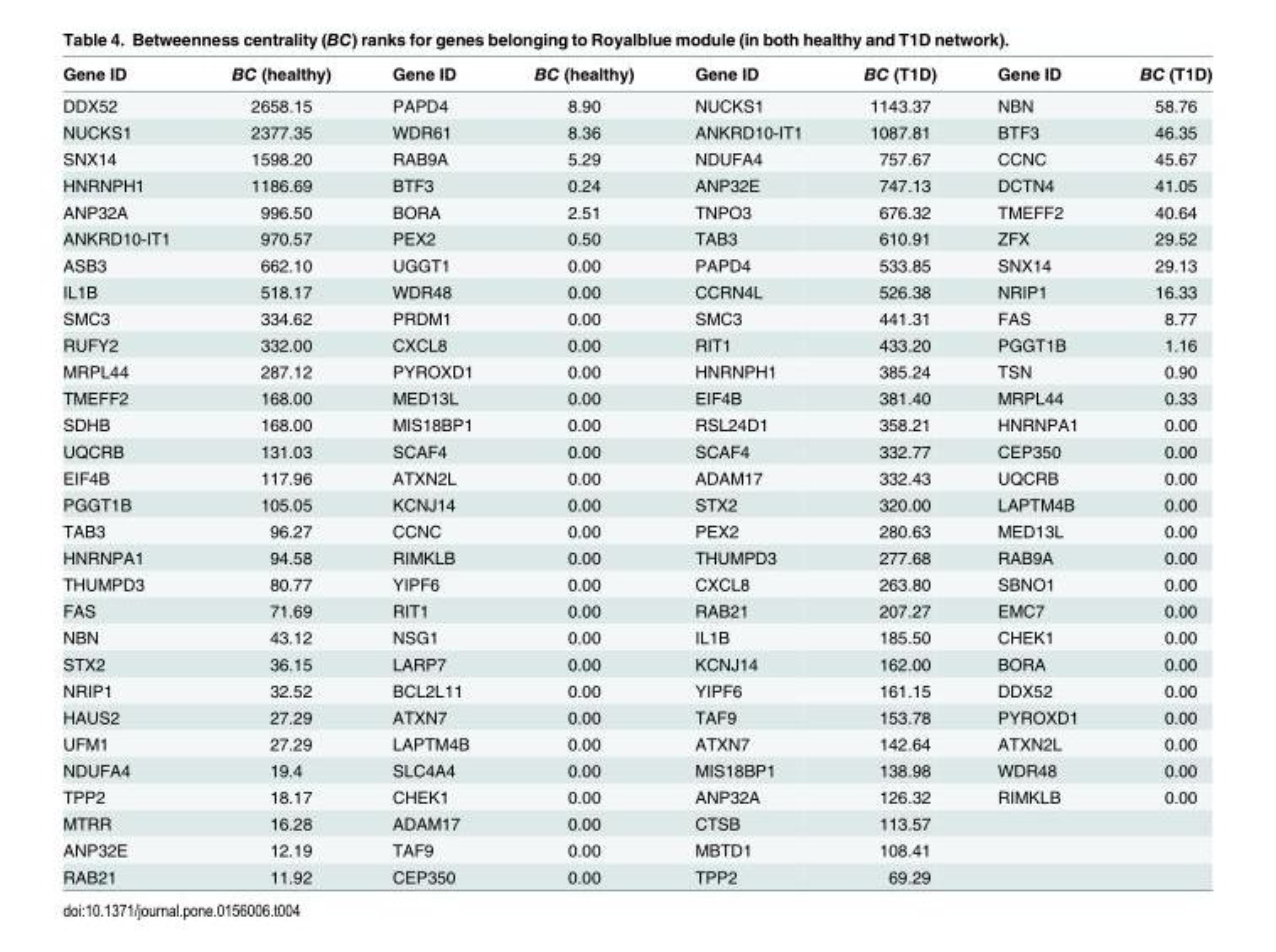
<table><thead><tr><td>Gene ID</td><td>BC (healthy)</td><td>Gene ID</td><td>BC (healthy)</td><td>Gene ID</td><td>BC (T1D)</td><td>Gene ID</td><td>BC (T1D)</td></tr></thead><tbody><tr><td>DDX52</td><td>2658.15</td><td>PAPD4</td><td>8.90</td><td>NUCKS1</td><td>1143.37</td><td>NBN</td><td>58.76</td></tr><tr><td>NUCKS1</td><td>2377.35</td><td>WDR61</td><td>8.36</td><td>ANKRD10-IT1</td><td>1087.81</td><td>BTF3</td><td>46.35</td></tr><tr><td>SNX14</td><td>1598.20</td><td>RAB9A</td><td>5.29</td><td>NDUFA4</td><td>757.67</td><td>CCNC</td><td>45.67</td></tr><tr><td>HNRNPH1</td><td>1186.69</td><td>BTF3</td><td>0.24</td><td>ANP32E</td><td>747.13</td><td>DCTN4</td><td>41.05</td></tr><tr><td>ANP32A</td><td>996.50</td><td>BORA</td><td>2.51</td><td>TNPO3</td><td>676.32</td><td>TMEFF2</td><td>40.64</td></tr><tr><td>ANKRD10-IT1</td><td>970.57</td><td>PEX2</td><td>0.50</td><td>TAB3</td><td>610.91</td><td>ZFX</td><td>29.52</td></tr><tr><td>ASB3</td><td>662.10</td><td>UGGT1</td><td>0.00</td><td>PAPD4</td><td>533.85</td><td>SNX14</td><td>29.13</td></tr><tr><td>IL1B</td><td>518.17</td><td>WDR48</td><td>0.00</td><td>CCRN4L</td><td>526.38</td><td>NRIP1</td><td>16.33</td></tr><tr><td>SMC3</td><td>334.62</td><td>PRDM1</td><td>0.00</td><td>SMC3</td><td>441.31</td><td>FAS</td><td>8.77</td></tr><tr><td>RUFY2</td><td>332.00</td><td>CXCL8</td><td>0.00</td><td>RIT1</td><td>433.20</td><td>PGGT1B</td><td>1.16</td></tr><tr><td>MRPL44</td><td>287.12</td><td>PYROXD1</td><td>0.00</td><td>HNRNPH1</td><td>385.24</td><td>TSN</td><td>0.90</td></tr><tr><td>TMEFF2</td><td>168.00</td><td>MED13L</td><td>0.00</td><td>EIF4B</td><td>381.40</td><td>MRPL44</td><td>0.33</td></tr><tr><td>SDHB</td><td>168.00</td><td>MIS18BP1</td><td>0.00</td><td>RSL24D1</td><td>358.21</td><td>HNRNPA1</td><td>0.00</td></tr><tr><td>UQCRB</td><td>131.03</td><td>SCAF4</td><td>0.00</td><td>SCAF4</td><td>332.77</td><td>CEP350</td><td>0.00</td></tr><tr><td>EIF4B</td><td>117.96</td><td>ATXN2L</td><td>0.00</td><td>ADAM17</td><td>332.43</td><td>UQCRB</td><td>0.00</td></tr><tr><td>PGGT1B</td><td>105.05</td><td>KCNJ14</td><td>0.00</td><td>STX2</td><td>320.00</td><td>LAPTM4B</td><td>0.00</td></tr><tr><td>TAB3</td><td>96.27</td><td>CCNC</td><td>0.00</td><td>PEX2</td><td>280.63</td><td>MED13L</td><td>0.00</td></tr><tr><td>HNRNPA1</td><td>94.58</td><td>RIMKLB</td><td>0.00</td><td>THUMPD3</td><td>277.68</td><td>RAB9A</td><td>0.00</td></tr><tr><td>THUMPD3</td><td>80.77</td><td>YIPF6</td><td>0.00</td><td>CXCL8</td><td>263.80</td><td>SBNO1</td><td>0.00</td></tr><tr><td>FAS</td><td>71.69</td><td>RIT1</td><td>0.00</td><td>RAB21</td><td>207.27</td><td>EMC7</td><td>0.00</td></tr><tr><td>NBN</td><td>43.12</td><td>NSG1</td><td>0.00</td><td>IL1B</td><td>185.50</td><td>CHEK1</td><td>0.00</td></tr><tr><td>STX2</td><td>36.15</td><td>LARP7</td><td>0.00</td><td>KCNJ14</td><td>162.00</td><td>BORA</td><td>0.00</td></tr><tr><td>NRIP1</td><td>32.52</td><td>BCL2L11</td><td>0.00</td><td>YIPF6</td><td>161.15</td><td>DDX52</td><td>0.00</td></tr><tr><td>HAUS2</td><td>27.29</td><td>ATXN7</td><td>0.00</td><td>TAF9</td><td>153.78</td><td>PYROXD1</td><td>0.00</td></tr><tr><td>UFM1</td><td>27.29</td><td>LAPTM4B</td><td>0.00</td><td>ATXN7</td><td>142.64</td><td>ATXN2L</td><td>0.00</td></tr><tr><td>NDUFA4</td><td>19.4</td><td>SLC4A4</td><td>0.00</td><td>MIS18BP1</td><td>138.98</td><td>WDR48</td><td>0.00</td></tr><tr><td>TPP2</td><td>18.17</td><td>CHEK1</td><td>0.00</td><td>ANP32A</td><td>126.32</td><td>RIMKLB</td><td>0.00</td></tr><tr><td>MTRR</td><td>16.28</td><td>ADAM17</td><td>0.00</td><td>CTSB</td><td>113.57</td><td></td><td></td></tr><tr><td>ANP32E</td><td>12.19</td><td>TAF9</td><td>0.00</td><td>MBTD1</td><td>108.41</td><td></td><td></td></tr><tr><td>RAB21</td><td>11.92</td><td>CEP350</td><td>0.00</td><td>TPP2</td><td>69.29</td><td></td><td></td></tr></tbody></table>